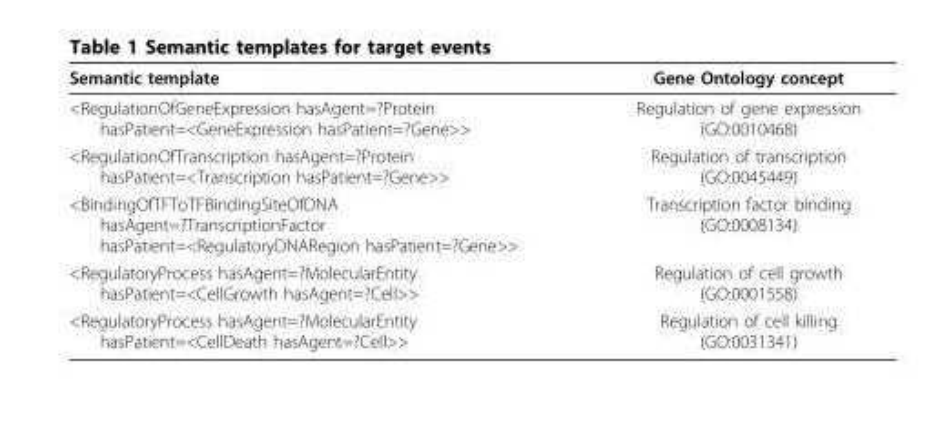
<table><thead><tr><td>Semantic template</td><td>Gene Ontology concept</td></tr></thead><tbody><tr><td>&lt;RegulationOfGeneExpression hasAgent=?Protein hasPatient=&lt;GeneExpression hasPatient=?Gene&gt;&gt;</td><td>Regulation of gene expression (GO:0010468)</td></tr><tr><td>&lt;RegulationOfTranscription hasAgent=?Protein hasPatient=&lt;Transcription hasPatient=?Gene&gt;&gt;</td><td>Regulation of transcription (GO:0045449)</td></tr><tr><td>&lt;BindingOfTFToTFBindingSiteOfDNA hasAgent=?TranscriptionFactor hasPatient=&lt;RegulatoryDNARegion hasPatient=?Gene&gt;&gt;</td><td>Transcription factor binding (GO:0008134)</td></tr><tr><td>&lt;RegulatoryProcess hasAgent=?MolecularEntity hasPatient=&lt;CellGrowth hasAgent=?Cell&gt;&gt;</td><td>Regulation of cell growth (GO:0001558)</td></tr><tr><td>&lt;RegulatoryProcess hasAgent=?MolecularEntity hasPatient=&lt;CellDeath hasAgent=?Cell&gt;&gt;</td><td>Regulation of cell killing (GO:0031341)</td></tr></tbody></table>